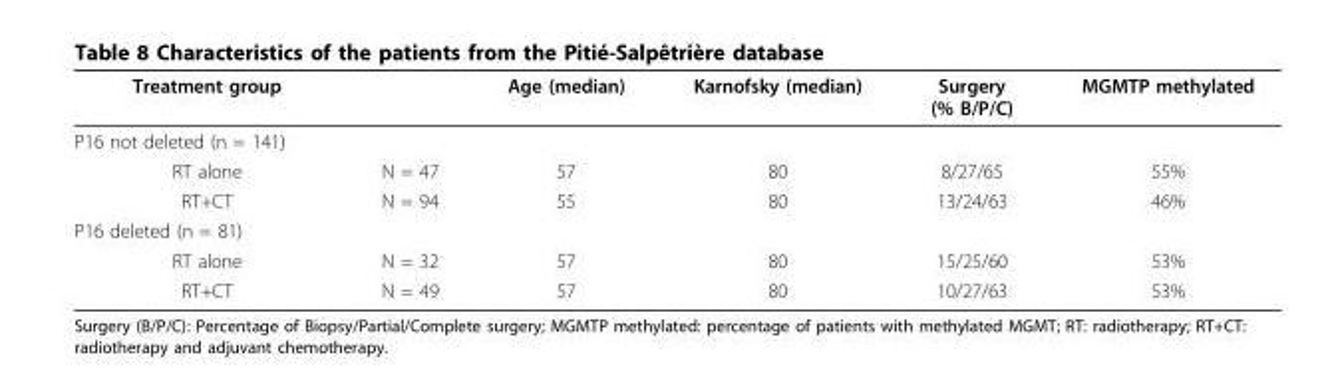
<table><thead><tr><td>Treatment group</td><td></td><td>Age (median)</td><td>Karnofsky (median)</td><td>Surgery (% B/P/C)</td><td>MGMTP methylated</td></tr></thead><tbody><tr><td colspan="6">P16 not deleted (n = 141)</td></tr><tr><td>RT alone</td><td>N = 47</td><td>57</td><td>80</td><td>8/27/65</td><td>55%</td></tr><tr><td>RT+CT</td><td>N = 94</td><td>55</td><td>80</td><td>13/24/63</td><td>46%</td></tr><tr><td colspan="6">P16 deleted (n = 81)</td></tr><tr><td>RT alone</td><td>N = 32</td><td>57</td><td>80</td><td>15/25/60</td><td>53%</td></tr><tr><td>RT+CT</td><td>N = 49</td><td>57</td><td>80</td><td>10/27/63</td><td>53%</td></tr></tbody></table>